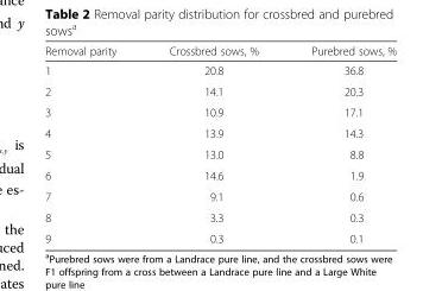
<table><thead><tr><td>Removal parity</td><td>Crossbred sows, %</td><td>Purebred sows, %</td></tr></thead><tbody><tr><td>1</td><td>20.8</td><td>36.8</td></tr><tr><td>2</td><td>14.1</td><td>20.3</td></tr><tr><td>3</td><td>10.9</td><td>17.1</td></tr><tr><td>4</td><td>13.9</td><td>14.3</td></tr><tr><td>5</td><td>13.0</td><td>8.8</td></tr><tr><td>6</td><td>14.6</td><td>1.9</td></tr><tr><td>7</td><td>9.1</td><td>0.6</td></tr><tr><td>8</td><td>3.3</td><td>0.3</td></tr><tr><td>9</td><td>0.3</td><td>0.1</td></tr></tbody></table>